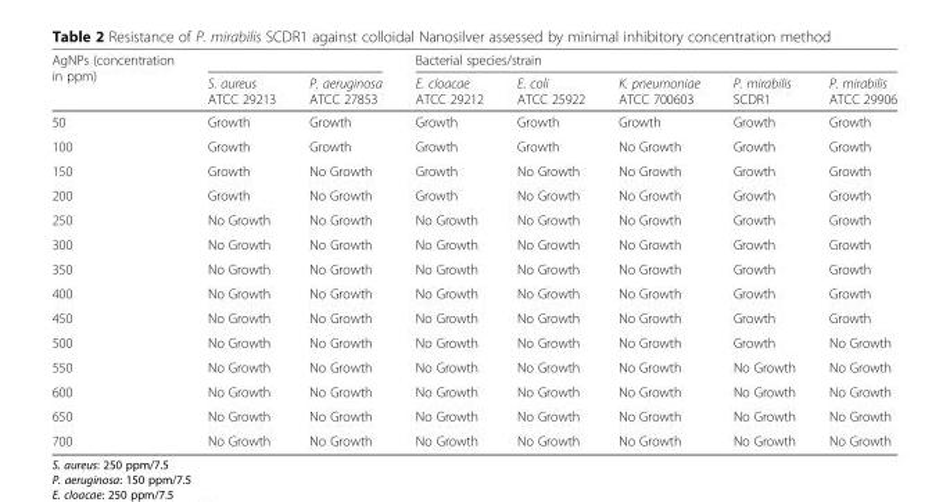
<table><thead><tr><td rowspan="2">AgNPs (concentration in ppm)</td><td rowspan="2">S. aureus ATCC 29213</td><td rowspan="2">P. aeruginosa ATCC 27853</td><td colspan="5">Bacterial species/strain</td></tr><tr><td>E. cloacae ATCC 29212</td><td>E. coli ATCC 25922</td><td>K. pneumoniae ATCC 700603</td><td>P. mirabilis SCDR1</td><td>P. mirabilis ATCC 29906</td></tr></thead><tbody><tr><td>50</td><td>Growth</td><td>Growth</td><td>Growth</td><td>Growth</td><td>Growth</td><td>Growth</td><td>Growth</td></tr><tr><td>100</td><td>Growth</td><td>Growth</td><td>Growth</td><td>Growth</td><td>No Growth</td><td>Growth</td><td>Growth</td></tr><tr><td>150</td><td>Growth</td><td>No Growth</td><td>Growth</td><td>No Growth</td><td>No Growth</td><td>Growth</td><td>Growth</td></tr><tr><td>200</td><td>Growth</td><td>No Growth</td><td>Growth</td><td>No Growth</td><td>No Growth</td><td>Growth</td><td>Growth</td></tr><tr><td>250</td><td>No Growth</td><td>No Growth</td><td>No Growth</td><td>No Growth</td><td>No Growth</td><td>Growth</td><td>Growth</td></tr><tr><td>300</td><td>No Growth</td><td>No Growth</td><td>No Growth</td><td>No Growth</td><td>No Growth</td><td>Growth</td><td>Growth</td></tr><tr><td>350</td><td>No Growth</td><td>No Growth</td><td>No Growth</td><td>No Growth</td><td>No Growth</td><td>Growth</td><td>Growth</td></tr><tr><td>400</td><td>No Growth</td><td>No Growth</td><td>No Growth</td><td>No Growth</td><td>No Growth</td><td>Growth</td><td>Growth</td></tr><tr><td>450</td><td>No Growth</td><td>No Growth</td><td>No Growth</td><td>No Growth</td><td>No Growth</td><td>Growth</td><td>Growth</td></tr><tr><td>500</td><td>No Growth</td><td>No Growth</td><td>No Growth</td><td>No Growth</td><td>No Growth</td><td>Growth</td><td>No Growth</td></tr><tr><td>550</td><td>No Growth</td><td>No Growth</td><td>No Growth</td><td>No Growth</td><td>No Growth</td><td>No Growth</td><td>No Growth</td></tr><tr><td>600</td><td>No Growth</td><td>No Growth</td><td>No Growth</td><td>No Growth</td><td>No Growth</td><td>No Growth</td><td>No Growth</td></tr><tr><td>650</td><td>No Growth</td><td>No Growth</td><td>No Growth</td><td>No Growth</td><td>No Growth</td><td>No Growth</td><td>No Growth</td></tr><tr><td>700</td><td>No Growth</td><td>No Growth</td><td>No Growth</td><td>No Growth</td><td>No Growth</td><td>No Growth</td><td>No Growth</td></tr></tbody></table>